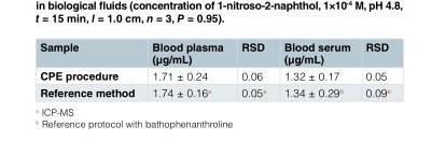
<table><thead><tr><td>Sample</td><td>Blood plasma (µg/mL)</td><td>RSD</td><td>Blood serum (µg/mL)</td><td>RSD</td></tr></thead><tbody><tr><td>CPE procedure</td><td>1.71 ± 0.24</td><td>0.06</td><td>1.32 ± 0.17</td><td>0.05</td></tr><tr><td>Reference method</td><td>1.74 ± 0.16<sup>a</sup></td><td>0.05<sup>a</sup></td><td>1.34 ± 0.29<sup>b</sup></td><td>0.09<sup>b</sup></td></tr></tbody></table>